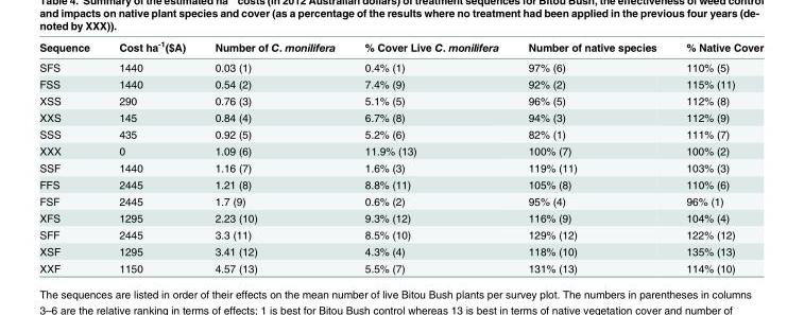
<table><thead><tr><td>Sequence</td><td>Cost ha<sup>-1</sup>($A)</td><td>Number of C. monilifera</td><td>% Cover Live C. monilifera</td><td>Number of native species</td><td>% Native Cover</td></tr></thead><tbody><tr><td>SFS</td><td>1440</td><td>0.03 (1)</td><td>0.4% (1)</td><td>97% (6)</td><td>110% (5)</td></tr><tr><td>FSS</td><td>1440</td><td>0.54 (2)</td><td>7.4% (9)</td><td>92% (2)</td><td>115% (11)</td></tr><tr><td>XSS</td><td>290</td><td>0.76 (3)</td><td>5.1% (5)</td><td>96% (5)</td><td>112% (8)</td></tr><tr><td>XXS</td><td>145</td><td>0.84 (4)</td><td>6.7% (8)</td><td>94% (3)</td><td>112% (9)</td></tr><tr><td>SSS</td><td>435</td><td>0.92 (5)</td><td>5.2% (6)</td><td>82% (1)</td><td>111% (7)</td></tr><tr><td>XXX</td><td>0</td><td>1.09 (6)</td><td>11.9% (13)</td><td>100% (7)</td><td>100% (2)</td></tr><tr><td>SSF</td><td>1440</td><td>1.16 (7)</td><td>1.6% (3)</td><td>119% (11)</td><td>103% (3)</td></tr><tr><td>FFS</td><td>2445</td><td>1.21 (8)</td><td>8.8% (11)</td><td>105% (8)</td><td>110% (6)</td></tr><tr><td>FSF</td><td>2445</td><td>1.7 (9)</td><td>0.6% (2)</td><td>95% (4)</td><td>96% (1)</td></tr><tr><td>XFS</td><td>1295</td><td>2.23 (10)</td><td>9.3% (12)</td><td>116% (9)</td><td>104% (4)</td></tr><tr><td>SFF</td><td>2445</td><td>3.3 (11)</td><td>8.5% (10)</td><td>129% (12)</td><td>122% (12)</td></tr><tr><td>XSF</td><td>1295</td><td>3.41 (12)</td><td>4.3% (4)</td><td>118% (10)</td><td>135% (13)</td></tr><tr><td>XXF</td><td>1150</td><td>4.57 (13)</td><td>5.5% (7)</td><td>131% (13)</td><td>114% (10)</td></tr></tbody></table>